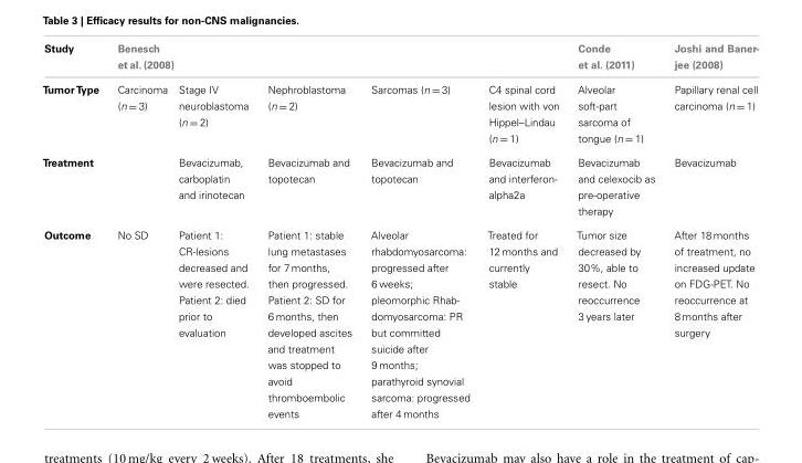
<table><thead><tr><td>Study</td><td>Benesch et al. (2008)</td><td></td><td></td><td></td><td></td><td>Conde et al. (2011)</td><td>Joshi and Baner- jee (2008)</td></tr></thead><tbody><tr><td>TumorType</td><td>Carcinoma (n = 3)</td><td>Stage IV neuroblastoma (n = 2)</td><td>Nephroblastoma (n = 2)</td><td>Sarcomas (n = 3)</td><td>C4 spinal cord lesion with von Hippel–Lindau (n = 1)</td><td>Alveolar soft-part sarcoma of tongue (n = 1)</td><td>Papillary renal cell carcinoma (n = 1)</td></tr><tr><td>Treatment</td><td></td><td>Bevacizumab, carboplatin and irinotecan</td><td>Bevacizumab and topotecan</td><td>Bevacizumab and topotecan</td><td>Bevacizumab and interferon- alpha2a</td><td>Bevacizumab and celexocib as pre-operative therapy</td><td>Bevacizumab</td></tr><tr><td>Outcome</td><td>No SD</td><td>Patient 1: CR-lesions decreased and were resected. Patient 2: died prior to evaluation</td><td>Patient 1: stable lung metastases for 7 months, then progressed. Patient 2: SD for 6 months, then developed ascites and treatment was stopped to avoid thromboembolic events</td><td>Alveolar rhabdomyosarcoma: progressed after 6 weeks; pleomorphic Rhab- domyosarcoma: PR but committed suicide after 9 months; parathyroid synovial sarcoma: progressed after 4 months</td><td>Treated for 12 months and currently stable</td><td>Tumor size decreased by 30%, able to resect. No reoccurrence 3 years later</td><td>After 18 months of treatment, no increased update on FDG-PET. No reoccurrence at 8 months after surgery</td></tr></tbody></table>